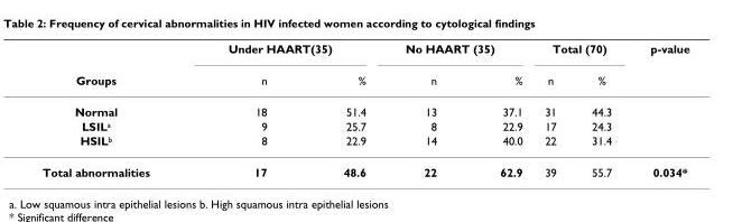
<table><thead><tr><td rowspan="2">Groups</td><td colspan="2">Under HAART(35)</td><td colspan="2">No HAART (35)</td><td colspan="2">Total (70)</td><td rowspan="2">p-value</td></tr><tr><td>n</td><td>%</td><td>n</td><td>%</td><td>n</td><td>%</td></tr></thead><tbody><tr><td>Normal</td><td>18</td><td>51.4</td><td>13</td><td>37.1</td><td>31</td><td>44.3</td><td></td></tr><tr><td>LSIL<sup>a</sup></td><td>9</td><td>25.7</td><td>8</td><td>22.9</td><td>17</td><td>24.3</td><td></td></tr><tr><td>HSIL<sup>b</sup></td><td>8</td><td>22.9</td><td>14</td><td>40.0</td><td>22</td><td>31.4</td><td></td></tr><tr><td>Total abnormalities</td><td>17</td><td>48.6</td><td>22</td><td>62.9</td><td>39</td><td>55.7</td><td>0.034*</td></tr></tbody></table>